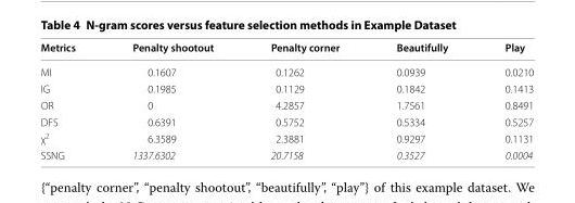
<table><thead><tr><td>Metrics</td><td>Penalty shootout</td><td>Penalty corner</td><td>Beautifully</td><td>Play</td></tr></thead><tbody><tr><td>MI</td><td>0.1607</td><td>0.1262</td><td>0.0939</td><td>0.0210</td></tr><tr><td>IG</td><td>0.1985</td><td>0.1129</td><td>0.1842</td><td>0.1413</td></tr><tr><td>OR</td><td>0</td><td>4.2857</td><td>1.7561</td><td>0.8491</td></tr><tr><td>DFS</td><td>0.6391</td><td>0.5752</td><td>0.5334</td><td>0.5257</td></tr><tr><td>χ<sup>2</sup></td><td>6.3589</td><td>2.3881</td><td>0.9297</td><td>0.1131</td></tr><tr><td>SSNG</td><td>1337.6302</td><td>20.7158</td><td>0.3527</td><td>0.0004</td></tr></tbody></table>